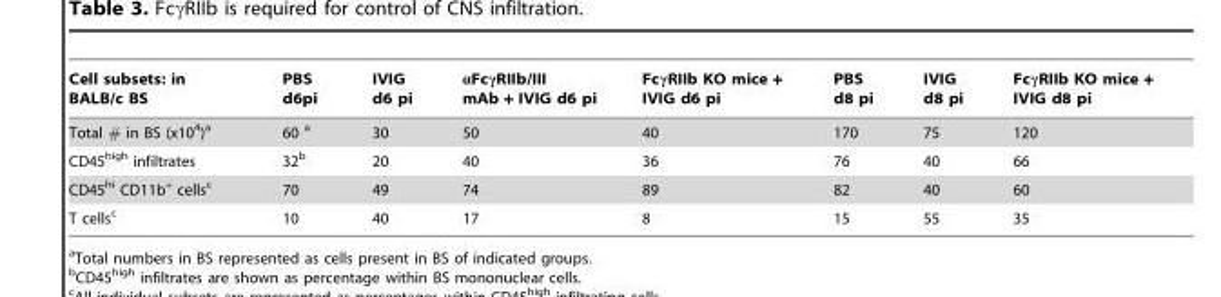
<table><thead><tr><td>Cell subsets: in BALB/c BS</td><td>PBS d6pi</td><td>IVIG d6 pi</td><td>αFcγRIIb/III mAb + IVIG d6 pi</td><td>FcγRIIb KO mice + IVIG d6 pi</td><td>PBS d8 pi</td><td>IVIG d8 pi</td><td>FcγRIIb KO mice + IVIG d8 pi</td></tr></thead><tbody><tr><td>Total # in BS (x10<sup>4</sup>)<sup>a</sup></td><td>60 a</td><td>30</td><td>50</td><td>40</td><td>170</td><td>75</td><td>120</td></tr><tr><td>CD45<sup>high</sup> infiltrates</td><td>32<sup>b</sup></td><td>20</td><td>40</td><td>36</td><td>76</td><td>40</td><td>66</td></tr><tr><td>CD45<sup>hi</sup> CD11b<sup>+</sup> cells<sup>c</sup></td><td>70</td><td>49</td><td>74</td><td>89</td><td>82</td><td>40</td><td>60</td></tr><tr><td>T cells<sup>c</sup></td><td>10</td><td>40</td><td>17</td><td>8</td><td>15</td><td>55</td><td>35</td></tr></tbody></table>